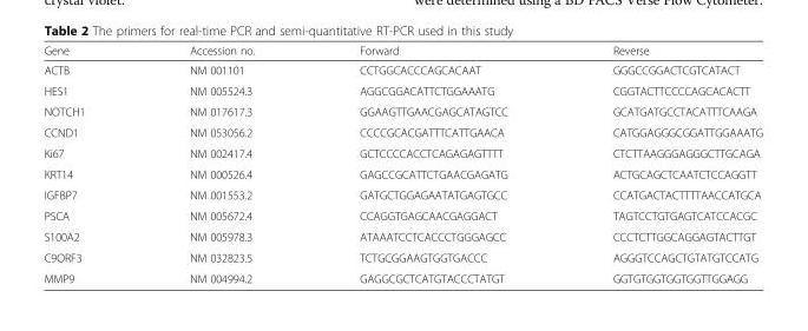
<table><thead><tr><td>Gene</td><td>Accession no.</td><td>Forward</td><td>Reverse</td></tr></thead><tbody><tr><td>ACTB</td><td>NM 001101</td><td>CCTGGCACCCAGCACAAT</td><td>GGGCCGGACTCGTCATACT</td></tr><tr><td>HES1</td><td>NM 005524.3</td><td>AGGCGGACATTCTGGAAATG</td><td>CGGTACTTCCCCAGCACACTT</td></tr><tr><td>NOTCH1</td><td>NM 017617.3</td><td>GGAAGTTGAACGAGCATAGTCC</td><td>GCATGATGCCTACATTTCAAGA</td></tr><tr><td>CCND1</td><td>NM 053056.2</td><td>CCCCGCACGATTTCATTGAACA</td><td>CATGGAGGGCGGATTGGAAATG</td></tr><tr><td>Ki67</td><td>NM 002417.4</td><td>GCTCCCCACCTCAGAGAGTTTT</td><td>CTCTTAAGGGAGGGCTTGCAGA</td></tr><tr><td>KRT14</td><td>NM 000526.4</td><td>GAGCCGCATTCTGAACGAGATG</td><td>ACTGCAGCTCAATCTCCAGGTT</td></tr><tr><td>IGFBP7</td><td>NM 001553.2</td><td>GATGCTGGAGAATATGAGTGCC</td><td>CCATGACTACTTTTAACCATGCA</td></tr><tr><td>PSCA</td><td>NM 005672.4</td><td>CCAGGTGAGCAACGAGGACT</td><td>TAGTCCTGTGAGTCATCCACGC</td></tr><tr><td>S100A2</td><td>NM 005978.3</td><td>ATAAATCCTCACCCTGGGAGCC</td><td>CCCTCTTGGCAGGAGTACTTGT</td></tr><tr><td>C9ORF3</td><td>NM 032823.5</td><td>TCTGCGGAAGTGGTGACCC</td><td>AGGGTCCAGCTGTATGTCCATG</td></tr><tr><td>MMP9</td><td>NM 004994.2</td><td>GAGGCGCTCATGTACCCTATGT</td><td>GGTGTGGTGGTGGTTGGAGG</td></tr></tbody></table>